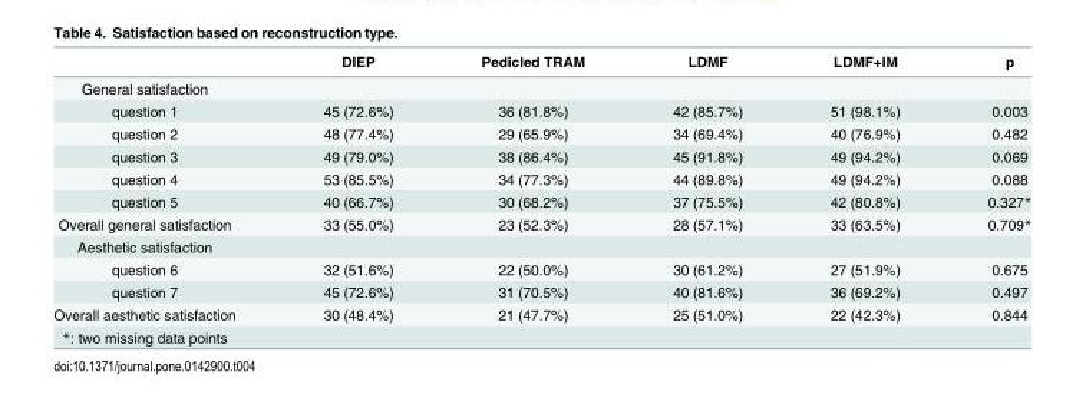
<table><thead><tr><td></td><td>DIEP</td><td>Pedicled TRAM</td><td>LDMF</td><td>LDMF+IM</td><td>p</td></tr></thead><tbody><tr><td colspan="6">General satisfaction</td></tr><tr><td>question 1</td><td>45 (72.6%)</td><td>36 (81.8%)</td><td>42 (85.7%)</td><td>51 (98.1%)</td><td>0.003</td></tr><tr><td>question 2</td><td>48 (77.4%)</td><td>29 (65.9%)</td><td>34 (69.4%)</td><td>40 (76.9%)</td><td>0.482</td></tr><tr><td>question 3</td><td>49 (79.0%)</td><td>38 (86.4%)</td><td>45 (91.8%)</td><td>49 (94.2%)</td><td>0.069</td></tr><tr><td>question 4</td><td>53 (85.5%)</td><td>34 (77.3%)</td><td>44 (89.8%)</td><td>49 (94.2%)</td><td>0.088</td></tr><tr><td>question 5</td><td>40 (66.7%)</td><td>30 (68.2%)</td><td>37 (75.5%)</td><td>42 (80.8%)</td><td>0.327*</td></tr><tr><td>Overall general satisfaction</td><td>33 (55.0%)</td><td>23 (52.3%)</td><td>28 (57.1%)</td><td>33 (63.5%)</td><td>0.709*</td></tr><tr><td colspan="6">Aesthetic satisfaction</td></tr><tr><td>question 6</td><td>32 (51.6%)</td><td>22 (50.0%)</td><td>30 (61.2%)</td><td>27 (51.9%)</td><td>0.675</td></tr><tr><td>question 7</td><td>45 (72.6%)</td><td>31 (70.5%)</td><td>40 (81.6%)</td><td>36 (69.2%)</td><td>0.497</td></tr><tr><td>Overall aesthetic satisfaction</td><td>30 (48.4%)</td><td>21 (47.7%)</td><td>25 (51.0%)</td><td>22 (42.3%)</td><td>0.844</td></tr><tr><td>*: two missing data points</td><td></td><td></td><td></td><td></td><td></td></tr></tbody></table>